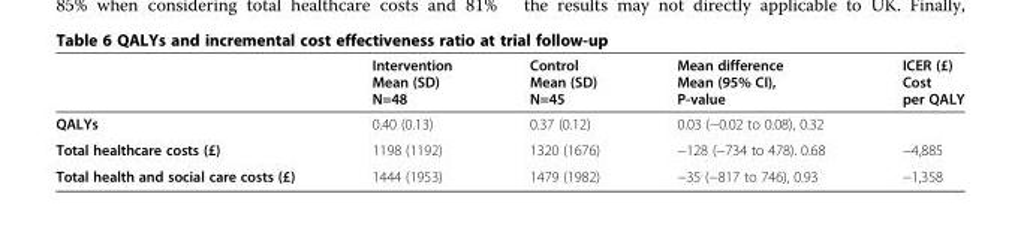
<table><thead><tr><td></td><td>Intervention Mean (SD) N=48</td><td>Control Mean (SD) N=45</td><td>Mean difference Mean (95% CI), P-value</td><td>ICER (£) Cost per QALY</td></tr></thead><tbody><tr><td>QALYs</td><td>0.40 (0.13)</td><td>0.37 (0.12)</td><td>0.03 (−0.02 to 0.08), 0.32</td><td></td></tr><tr><td>Total healthcare costs (£)</td><td>1198 (1192)</td><td>1320 (1676)</td><td>−128 (−734 to 478). 0.68</td><td>−4,885</td></tr><tr><td>Total health and social care costs (£)</td><td>1444 (1953)</td><td>1479 (1982)</td><td>−35 (−817 to 746), 0.93</td><td>−1,358</td></tr></tbody></table>